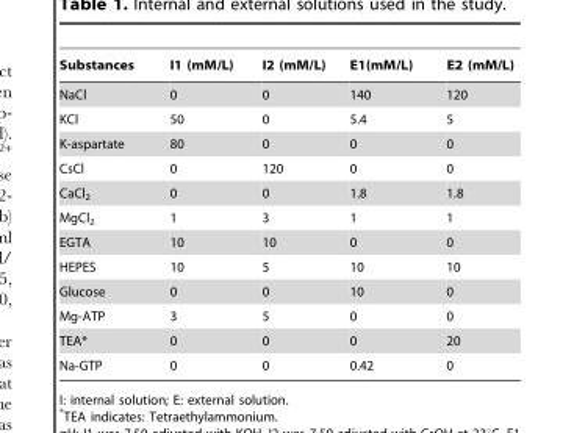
<table><thead><tr><td>Substances</td><td>I1 (mM/L)</td><td>I2 (mM/L)</td><td>E1(mM/L)</td><td>E2 (mM/L)</td></tr></thead><tbody><tr><td>NaCl</td><td>0</td><td>0</td><td>140</td><td>120</td></tr><tr><td>KCl</td><td>50</td><td>0</td><td>5.4</td><td>5</td></tr><tr><td>K-aspartate</td><td>80</td><td>0</td><td>0</td><td>0</td></tr><tr><td>CsCl</td><td>0</td><td>120</td><td>0</td><td>0</td></tr><tr><td>CaCl<sub>2</sub></td><td>0</td><td>0</td><td>1.8</td><td>1.8</td></tr><tr><td>MgCl<sub>2</sub></td><td>1</td><td>3</td><td>1</td><td>1</td></tr><tr><td>EGTA</td><td>10</td><td>10</td><td>0</td><td>0</td></tr><tr><td>HEPES</td><td>10</td><td>5</td><td>10</td><td>10</td></tr><tr><td>Glucose</td><td>0</td><td>0</td><td>10</td><td>0</td></tr><tr><td>Mg-ATP</td><td>3</td><td>5</td><td>0</td><td>0</td></tr><tr><td>TEA*</td><td>0</td><td>0</td><td>0</td><td>20</td></tr><tr><td>Na-GTP</td><td>0</td><td>0</td><td>0.42</td><td>0</td></tr></tbody></table>